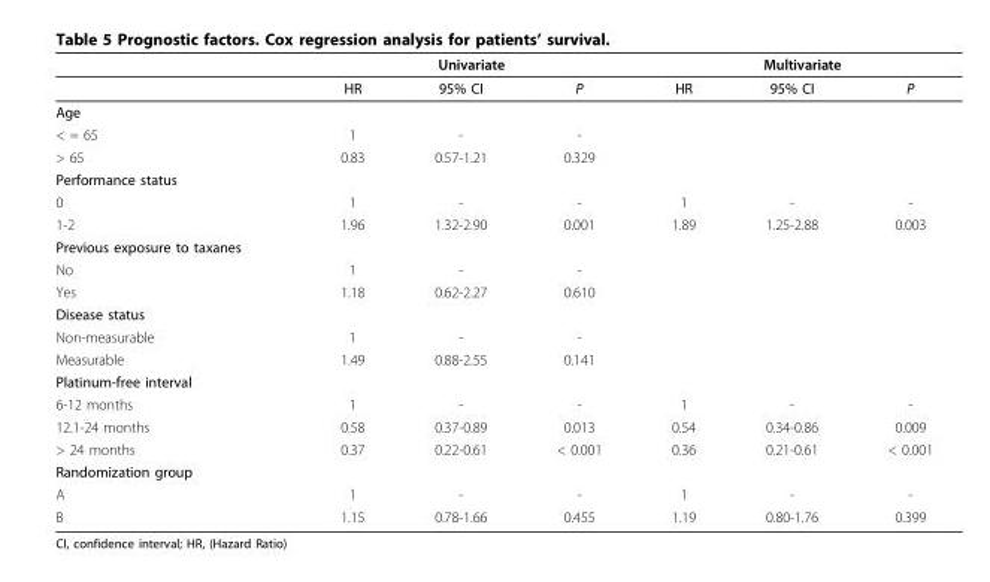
<table><thead><tr><td rowspan="2"></td><td colspan="3">Univariate</td><td colspan="3">Multivariate</td></tr><tr><td>HR</td><td>95% CI</td><td>P</td><td>HR</td><td>95% CI</td><td>P</td></tr></thead><tbody><tr><td colspan="7">Age</td></tr><tr><td>&lt; = 65</td><td>1</td><td>-</td><td>-</td><td></td><td></td><td></td></tr><tr><td>&gt; 65</td><td>0.83</td><td>0.57-1.21</td><td>0.329</td><td></td><td></td><td></td></tr><tr><td colspan="7">Performance status</td></tr><tr><td>0</td><td>1</td><td>-</td><td>-</td><td>1</td><td>-</td><td>-</td></tr><tr><td>1-2</td><td>1.96</td><td>1.32-2.90</td><td>0.001</td><td>1.89</td><td>1.25-2.88</td><td>0.003</td></tr><tr><td colspan="7">Previous exposure to taxanes</td></tr><tr><td>No</td><td>1</td><td>-</td><td>-</td><td></td><td></td><td></td></tr><tr><td>Yes</td><td>1.18</td><td>0.62-2.27</td><td>0.610</td><td></td><td></td><td></td></tr><tr><td colspan="7">Disease status</td></tr><tr><td>Non-measurable</td><td>1</td><td>-</td><td>-</td><td></td><td></td><td></td></tr><tr><td>Measurable</td><td>1.49</td><td>0.88-2.55</td><td>0.141</td><td></td><td></td><td></td></tr><tr><td colspan="7">Platinum-free interval</td></tr><tr><td>6-12 months</td><td>1</td><td>-</td><td>-</td><td>1</td><td>-</td><td>-</td></tr><tr><td>12.1-24 months</td><td>0.58</td><td>0.37-0.89</td><td>0.013</td><td>0.54</td><td>0.34-0.86</td><td>0.009</td></tr><tr><td>&gt; 24 months</td><td>0.37</td><td>0.22-0.61</td><td>&lt; 0.001</td><td>0.36</td><td>0.21-0.61</td><td>&lt; 0.001</td></tr><tr><td colspan="7">Randomization group</td></tr><tr><td>A</td><td>1</td><td>-</td><td>-</td><td>1</td><td>-</td><td>-</td></tr><tr><td>B</td><td>1.15</td><td>0.78-1.66</td><td>0.455</td><td>1.19</td><td>0.80-1.76</td><td>0.399</td></tr></tbody></table>